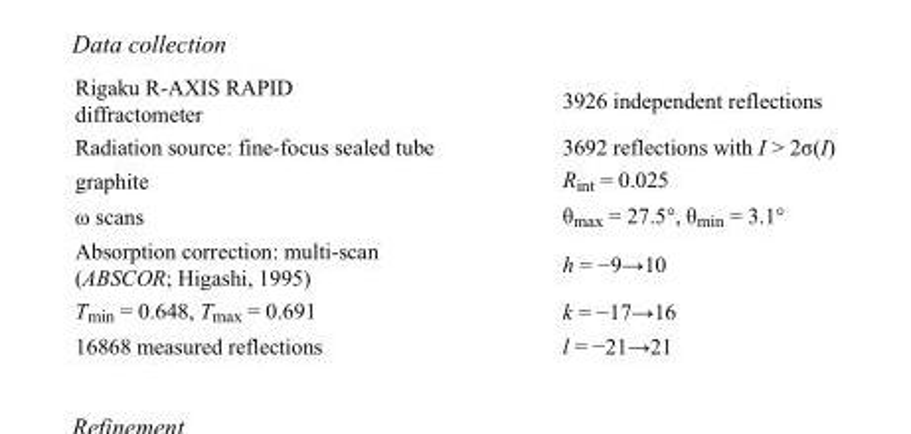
<table><tbody><tr><td>Rigaku R-AXIS RAPID diffractometer</td><td>3926 independent reflections</td></tr><tr><td>Radiation source: fine-focus sealed tube</td><td>3692 reflections with I &gt; 2σ(I)</td></tr><tr><td>graphite</td><td>R<sub>int</sub> = 0.025</td></tr><tr><td>ω scans</td><td>θ<sub>max</sub> = 27.5°, θ<sub>min</sub> = 3.1°</td></tr><tr><td>Absorption correction: multi-scan (ABSCOR; Higashi, 1995)</td><td>h = −9→10</td></tr><tr><td>T<sub>min</sub> = 0.648, T<sub>max</sub> = 0.691</td><td>k = −17→16</td></tr><tr><td>16868 measured reflections</td><td>l = −21→21</td></tr></tbody></table>